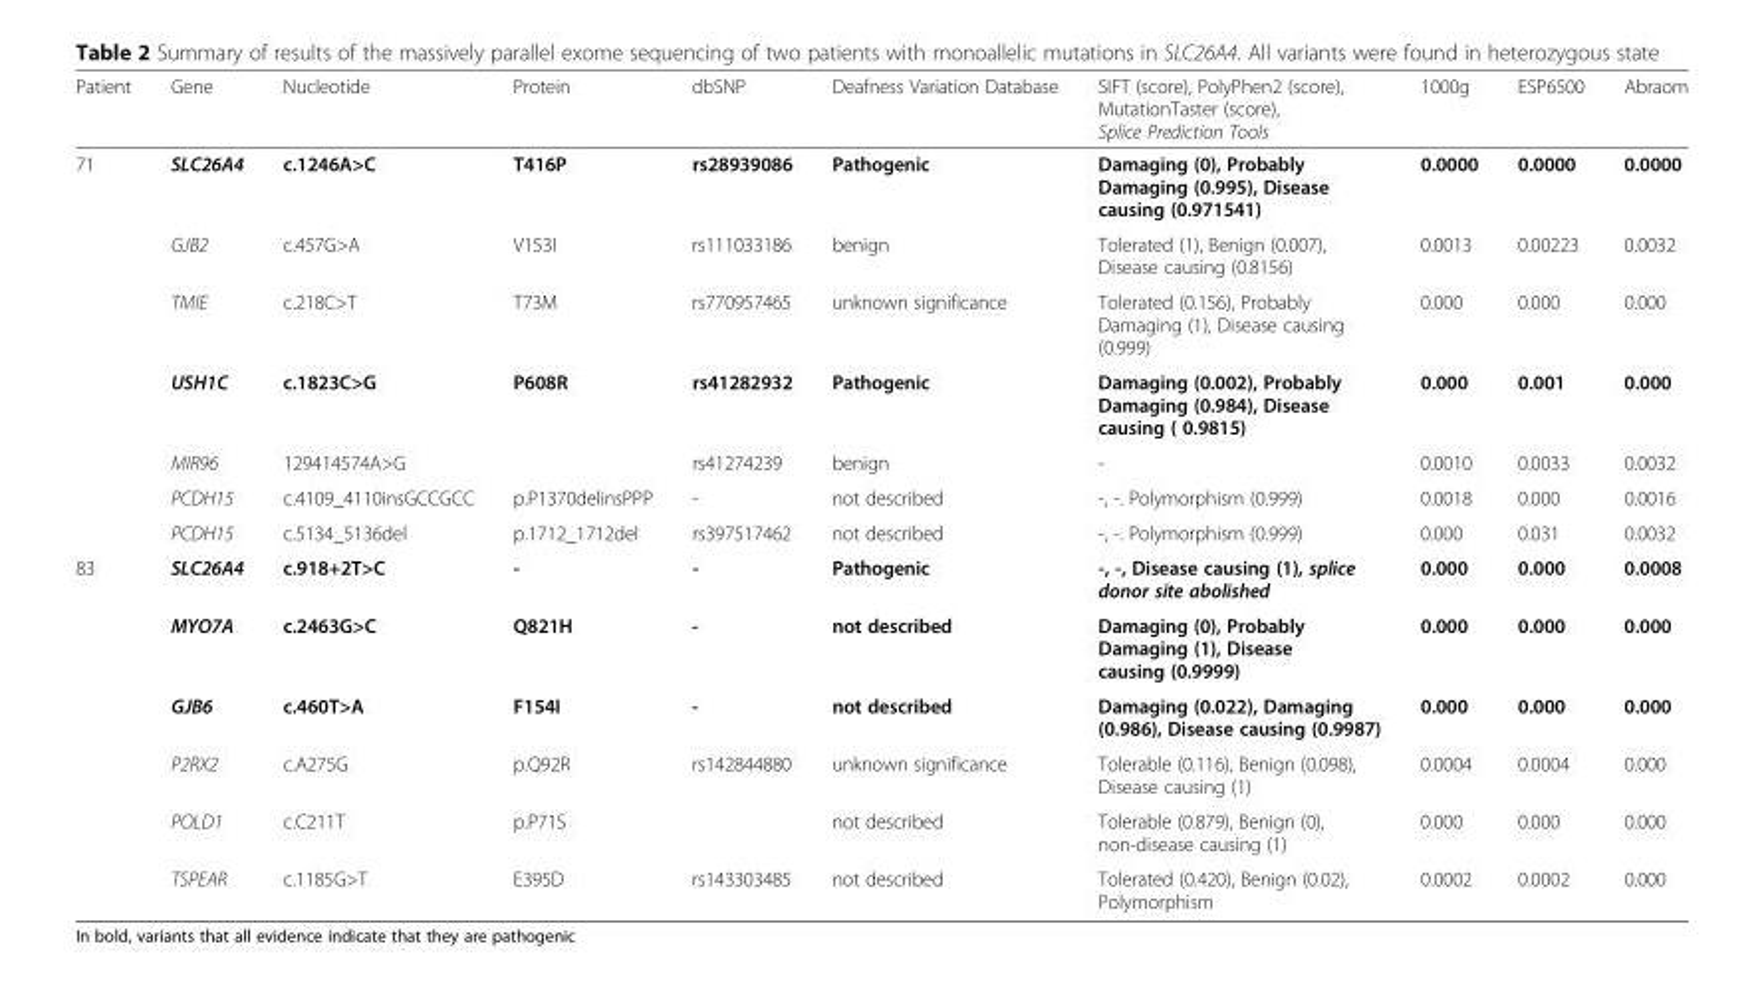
<table><thead><tr><td>Patient</td><td>Gene</td><td>Nucleotide</td><td>Protein</td><td>dbSNP</td><td>Deafness Variation Database</td><td>SIFT (score), PolyPhen2 (score), MutationTaster (score), Splice Prediction Tools</td><td>1000g</td><td>ESP6500</td><td>Abraom</td></tr></thead><tbody><tr><td rowspan="7">71</td><td>SLC26A4</td><td>c.1246A&gt;C</td><td>T416P</td><td>rs28939086</td><td>Pathogenic</td><td>Damaging (0), Probably Damaging (0.995), Disease causing (0.971541)</td><td>0.0000</td><td>0.0000</td><td>0.0000</td></tr><tr><td>GJB2</td><td>c.457G&gt;A</td><td>V153I</td><td>rs111033186</td><td>benign</td><td>Tolerated (1), Benign (0.007), Disease causing (0.8156)</td><td>0.0013</td><td>0.00223</td><td>0.0032</td></tr><tr><td>TMIE</td><td>c.218C&gt;T</td><td>T73M</td><td>rs770957465</td><td>unknown significance</td><td>Tolerated (0.156), Probably Damaging (1), Disease causing (0.999)</td><td>0.000</td><td>0.000</td><td>0.000</td></tr><tr><td>USH1C</td><td>c.1823C&gt;G</td><td>P608R</td><td>rs41282932</td><td>Pathogenic</td><td>Damaging (0.002), Probably Damaging (0.984), Disease causing ( 0.9815)</td><td>0.000</td><td>0.001</td><td>0.000</td></tr><tr><td>MIR96</td><td>129414574A&gt;G</td><td></td><td>rs41274239</td><td>benign</td><td>-</td><td>0.0010</td><td>0.0033</td><td>0.0032</td></tr><tr><td>PCDH15</td><td>c.4109_4110insGCCGCC</td><td>p.P1370delinsPPP</td><td>-</td><td>not described</td><td>-, -. Polymorphism (0.999)</td><td>0.0018</td><td>0.000</td><td>0.0016</td></tr><tr><td>PCDH15</td><td>c.5134_5136del</td><td>p.1712_1712del</td><td>rs397517462</td><td>not described</td><td>-, -. Polymorphism (0.999)</td><td>0.000</td><td>0.031</td><td>0.0032</td></tr><tr><td rowspan="6">83</td><td>SLC26A4</td><td>c.918+2T&gt;C</td><td>-</td><td>-</td><td>Pathogenic</td><td>-, -, Disease causing (1), splice donor site abolished</td><td>0.000</td><td>0.000</td><td>0.0008</td></tr><tr><td>MYO7A</td><td>c.2463G&gt;C</td><td>Q821H</td><td>-</td><td>not described</td><td>Damaging (0), Probably Damaging (1), Disease causing (0.9999)</td><td>0.000</td><td>0.000</td><td>0.000</td></tr><tr><td>GJB6</td><td>c.460T&gt;A</td><td>F154I</td><td>-</td><td>not described</td><td>Damaging (0.022), Damaging (0.986), Disease causing (0.9987)</td><td>0.000</td><td>0.000</td><td>0.000</td></tr><tr><td>P2RX2</td><td>c.A275G</td><td>p.Q92R</td><td>rs142844880</td><td>unknown significance</td><td>Tolerable (0.116), Benign (0.098), Disease causing (1)</td><td>0.0004</td><td>0.0004</td><td>0.000</td></tr><tr><td>POLD1</td><td>c.C211T</td><td>p.P71S</td><td></td><td>not described</td><td>Tolerable (0.879), Benign (0), non-disease causing (1)</td><td>0.000</td><td>0.000</td><td>0.000</td></tr><tr><td>TSPEAR</td><td>c.1185G&gt;T</td><td>E395D</td><td>rs143303485</td><td>not described</td><td>Tolerated (0.420), Benign (0.02), Polymorphism</td><td>0.0002</td><td>0.0002</td><td>0.000</td></tr></tbody></table>